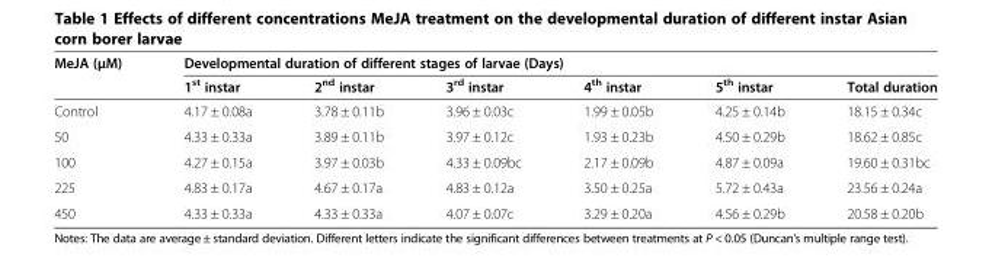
<table><thead><tr><td rowspan="2">MeJA (μM)</td><td colspan="6">Developmental duration of different stages of larvae (Days)</td></tr><tr><td>1<sup>st</sup> instar</td><td>2<sup>nd</sup> instar</td><td>3<sup>rd</sup> instar</td><td>4<sup>th</sup> instar</td><td>5<sup>th</sup> instar</td><td>Total duration</td></tr></thead><tbody><tr><td>Control</td><td>4.17 ± 0.08a</td><td>3.78 ± 0.11b</td><td>3.96 ± 0.03c</td><td>1.99 ± 0.05b</td><td>4.25 ± 0.14b</td><td>18.15 ± 0.34c</td></tr><tr><td>50</td><td>4.33 ± 0.33a</td><td>3.89 ± 0.11b</td><td>3.97 ± 0.12c</td><td>1.93 ± 0.23b</td><td>4.50 ± 0.29b</td><td>18.62 ± 0.85c</td></tr><tr><td>100</td><td>4.27 ± 0.15a</td><td>3.97 ± 0.03b</td><td>4.33 ± 0.09bc</td><td>2.17 ± 0.09b</td><td>4.87 ± 0.09a</td><td>19.60 ± 0.31bc</td></tr><tr><td>225</td><td>4.83 ± 0.17a</td><td>4.67 ± 0.17a</td><td>4.83 ± 0.12a</td><td>3.50 ± 0.25a</td><td>5.72 ± 0.43a</td><td>23.56 ± 0.24a</td></tr><tr><td>450</td><td>4.33 ± 0.33a</td><td>4.33 ± 0.33a</td><td>4.07 ± 0.07c</td><td>3.29 ± 0.20a</td><td>4.56 ± 0.29b</td><td>20.58 ± 0.20b</td></tr></tbody></table>